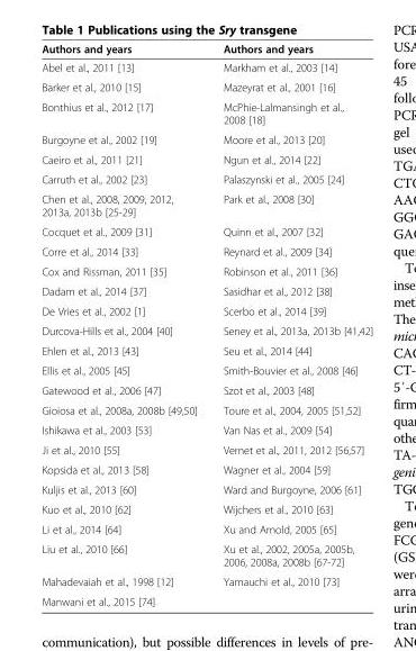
<table><thead><tr><td>Authors and years</td><td>Authors and years</td></tr></thead><tbody><tr><td>Abel et al., 2011 [13]</td><td>Markham et al., 2003 [14]</td></tr><tr><td>Barker et al., 2010 [15]</td><td>Mazeyrat et al., 2001 [16]</td></tr><tr><td>Bonthius et al., 2012 [17]</td><td>McPhie-Lalmansingh et al., 2008 [18]</td></tr><tr><td>Burgoyne et al., 2002 [19]</td><td>Moore et al., 2013 [20]</td></tr><tr><td>Caeiro et al., 2011 [21]</td><td>Ngun et al., 2014 [22]</td></tr><tr><td>Carruth et al., 2002 [23]</td><td>Palaszynski et al., 2005 [24]</td></tr><tr><td>Chen et al., 2008, 2009, 2012, 2013a, 2013b [25-29]</td><td>Park et al., 2008 [30]</td></tr><tr><td>Cocquet et al., 2009 [31]</td><td>Quinn et al., 2007 [32]</td></tr><tr><td>Corre et al., 2014 [33]</td><td>Reynard et al., 2009 [34]</td></tr><tr><td>Cox and Rissman, 2011 [35]</td><td>Robinson et al., 2011 [36]</td></tr><tr><td>Dadam et al., 2014 [37]</td><td>Sasidhar et al., 2012 [38]</td></tr><tr><td>De Vries et al., 2002 [1]</td><td>Scerbo et al., 2014 [39]</td></tr><tr><td>Durcova-Hills et al., 2004 [40]</td><td>Seney et al., 2013a, 2013b [41,42]</td></tr><tr><td>Ehlen et al., 2013 [43]</td><td>Seu et al., 2014 [44]</td></tr><tr><td>Ellis et al., 2005 [45]</td><td>Smith-Bouvier et al., 2008 [46]</td></tr><tr><td>Gatewood et al., 2006 [47]</td><td>Szot et al., 2003 [48]</td></tr><tr><td>Gioiosa et al., 2008a, 2008b [49,50]</td><td>Toure et al., 2004, 2005 [51,52]</td></tr><tr><td>Ishikawa et al., 2003 [53]</td><td>Van Nas et al., 2009 [54]</td></tr><tr><td>Ji et al., 2010 [55]</td><td>Vernet et al., 2011, 2012 [56,57]</td></tr><tr><td>Kopsida et al., 2013 [58]</td><td>Wagner et al., 2004 [59]</td></tr><tr><td>Kuljis et al., 2013 [60]</td><td>Ward and Burgoyne, 2006 [61]</td></tr><tr><td>Kuo et al., 2010 [62]</td><td>Wijchers et al., 2010 [63]</td></tr><tr><td>Li et al., 2014 [64]</td><td>Xu and Arnold, 2005 [65]</td></tr><tr><td>Liu et al., 2010 [66]</td><td>Xu et al., 2002, 2005a, 2005b, 2006, 2008a, 2008b [67-72]</td></tr><tr><td>Mahadevaiah et al., 1998 [12]</td><td>Yamauchi et al., 2010 [73]</td></tr><tr><td>Manwani et al., 2015 [74]</td><td></td></tr></tbody></table>